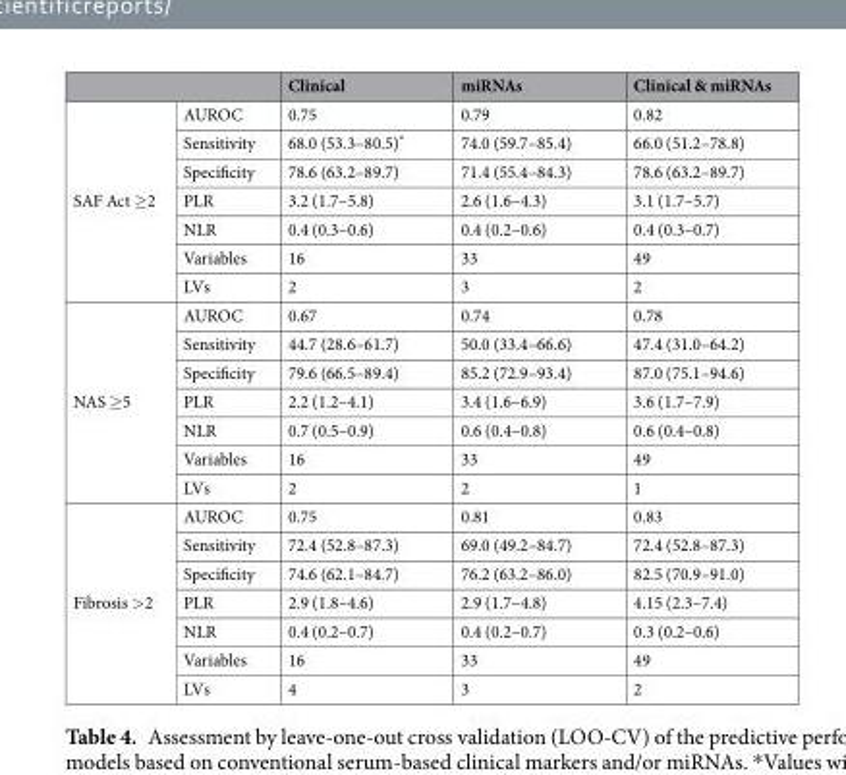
<table><thead><tr><td></td><td></td><td>Clinical</td><td>miRNAs</td><td>Clinical &amp; miRNAs</td></tr></thead><tbody><tr><td rowspan="7">SAF Act ≥2</td><td>AUROC</td><td>0.75</td><td>0.79</td><td>0.82</td></tr><tr><td>Sensitivity</td><td>68.0 (53.3–80.5)*</td><td>74.0 (59.7–85.4)</td><td>66.0 (51.2–78.8)</td></tr><tr><td>Specificity</td><td>78.6 (63.2–89.7)</td><td>71.4 (55.4–84.3)</td><td>78.6 (63.2–89.7)</td></tr><tr><td>PLR</td><td>3.2 (1.7–5.8)</td><td>2.6 (1.6–4.3)</td><td>3.1 (1.7–5.7)</td></tr><tr><td>NLR</td><td>0.4 (0.3–0.6)</td><td>0.4 (0.2–0.6)</td><td>0.4 (0.3–0.7)</td></tr><tr><td>Variables</td><td>16</td><td>33</td><td>49</td></tr><tr><td>LVs</td><td>2</td><td>3</td><td>2</td></tr><tr><td rowspan="7">NAS ≥5</td><td>AUROC</td><td>0.67</td><td>0.74</td><td>0.78</td></tr><tr><td>Sensitivity</td><td>44.7 (28.6–61.7)</td><td>50.0 (33.4–66.6)</td><td>47.4 (31.0–64.2)</td></tr><tr><td>Specificity</td><td>79.6 (66.5–89.4)</td><td>85.2 (72.9–93.4)</td><td>87.0 (75.1–94.6)</td></tr><tr><td>PLR</td><td>2.2 (1.2–4.1)</td><td>3.4 (1.6–6.9)</td><td>3.6 (1.7–7.9)</td></tr><tr><td>NLR</td><td>0.7 (0.5–0.9)</td><td>0.6 (0.4–0.8)</td><td>0.6 (0.4–0.8)</td></tr><tr><td>Variables</td><td>16</td><td>33</td><td>49</td></tr><tr><td>LVs</td><td>2</td><td>2</td><td>1</td></tr><tr><td rowspan="7">Fibrosis &gt;2</td><td>AUROC</td><td>0.75</td><td>0.81</td><td>0.83</td></tr><tr><td>Sensitivity</td><td>72.4 (52.8–87.3)</td><td>69.0 (49.2–84.7)</td><td>72.4 (52.8–87.3)</td></tr><tr><td>Specificity</td><td>74.6 (62.1–84.7)</td><td>76.2 (63.2–86.0)</td><td>82.5 (70.9–91.0)</td></tr><tr><td>PLR</td><td>2.9 (1.8–4.6)</td><td>2.9 (1.7–4.8)</td><td>4.15 (2.3–7.4)</td></tr><tr><td>NLR</td><td>0.4 (0.2–0.7)</td><td>0.4 (0.2–0.7)</td><td>0.3 (0.2–0.6)</td></tr><tr><td>Variables</td><td>16</td><td>33</td><td>49</td></tr><tr><td>LVs</td><td>4</td><td>3</td><td>2</td></tr></tbody></table>